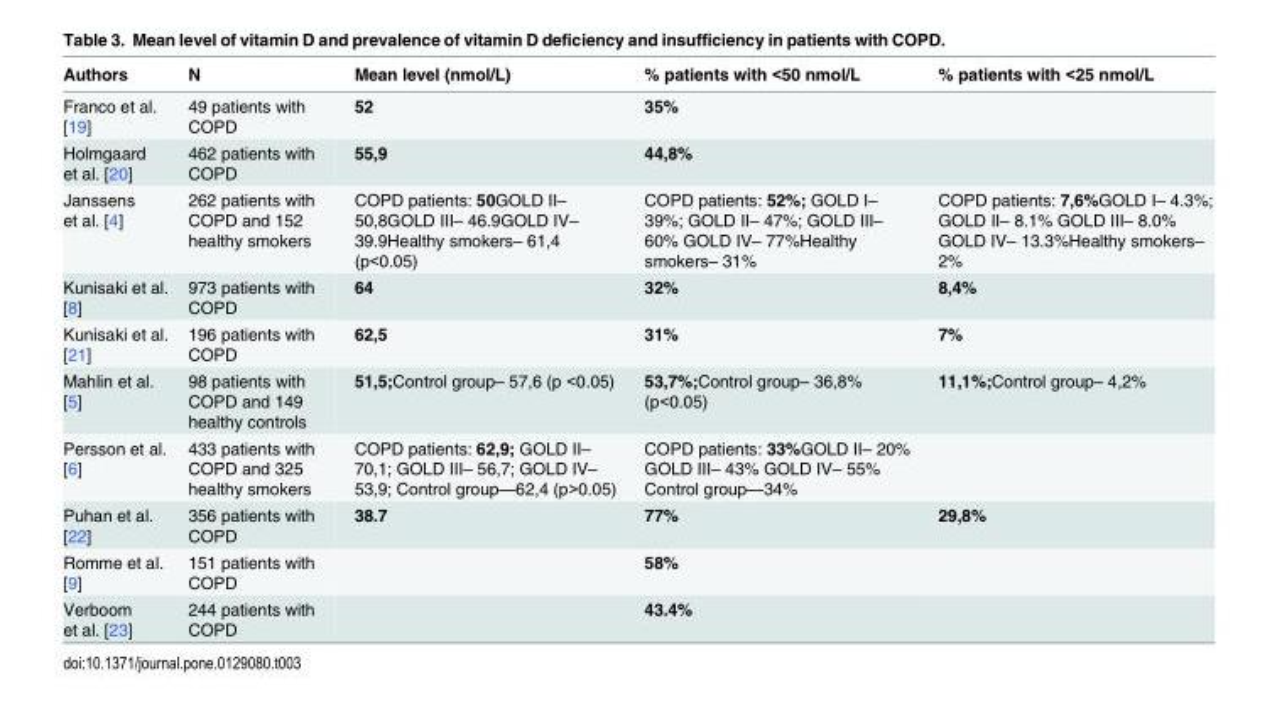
<table><thead><tr><td>Authors</td><td>N</td><td>Mean level (nmol/L)</td><td>% patients with &lt;50 nmol/L</td><td>% patients with &lt;25 nmol/L</td></tr></thead><tbody><tr><td>Franco et al. [19]</td><td>49 patients with COPD</td><td>52</td><td>35%</td><td></td></tr><tr><td>Holmgaard et al. [20]</td><td>462 patients with COPD</td><td>55,9</td><td>44,8%</td><td></td></tr><tr><td>Janssens et al. [4]</td><td>262 patients with COPD and 152 healthy smokers</td><td>COPD patients: 50GOLD II– 50,8GOLD III– 46.9GOLD IV– 39.9Healthy smokers– 61,4 (p&lt;0.05)</td><td>COPD patients: 52%; GOLD I– 39%; GOLD II– 47%; GOLD III– 60% GOLD IV– 77%Healthy smokers– 31%</td><td>COPD patients: 7,6%GOLD I– 4.3%; GOLD II– 8.1% GOLD III– 8.0% GOLD IV– 13.3%Healthy smokers– 2%</td></tr><tr><td>Kunisaki et al. [8]</td><td>973 patients with COPD</td><td>64</td><td>32%</td><td>8,4%</td></tr><tr><td>Kunisaki et al. [21]</td><td>196 patients with COPD</td><td>62,5</td><td>31%</td><td>7%</td></tr><tr><td>Mahlin et al. [5]</td><td>98 patients with COPD and 149 healthy controls</td><td>51,5;Control group– 57,6 (p &lt;0.05)</td><td>53,7%;Control group– 36,8% (p&lt;0.05)</td><td>11,1%;Control group– 4,2%</td></tr><tr><td>Persson et al. [6]</td><td>433 patients with COPD and 325 healthy smokers</td><td>COPD patients: 62,9; GOLD II– 70,1; GOLD III– 56,7; GOLD IV– 53,9; Control group—62,4 (p&gt;0.05)</td><td>COPD patients: 33%GOLD II– 20% GOLD III– 43% GOLD IV– 55% Control group—34%</td><td></td></tr><tr><td>Puhan et al. [22]</td><td>356 patients with COPD</td><td>38.7</td><td>77%</td><td>29,8%</td></tr><tr><td>Romme et al. [9]</td><td>151 patients with COPD</td><td></td><td>58%</td><td></td></tr><tr><td>Verboom et al. [23]</td><td>244 patients with COPD</td><td></td><td>43.4%</td><td></td></tr></tbody></table>